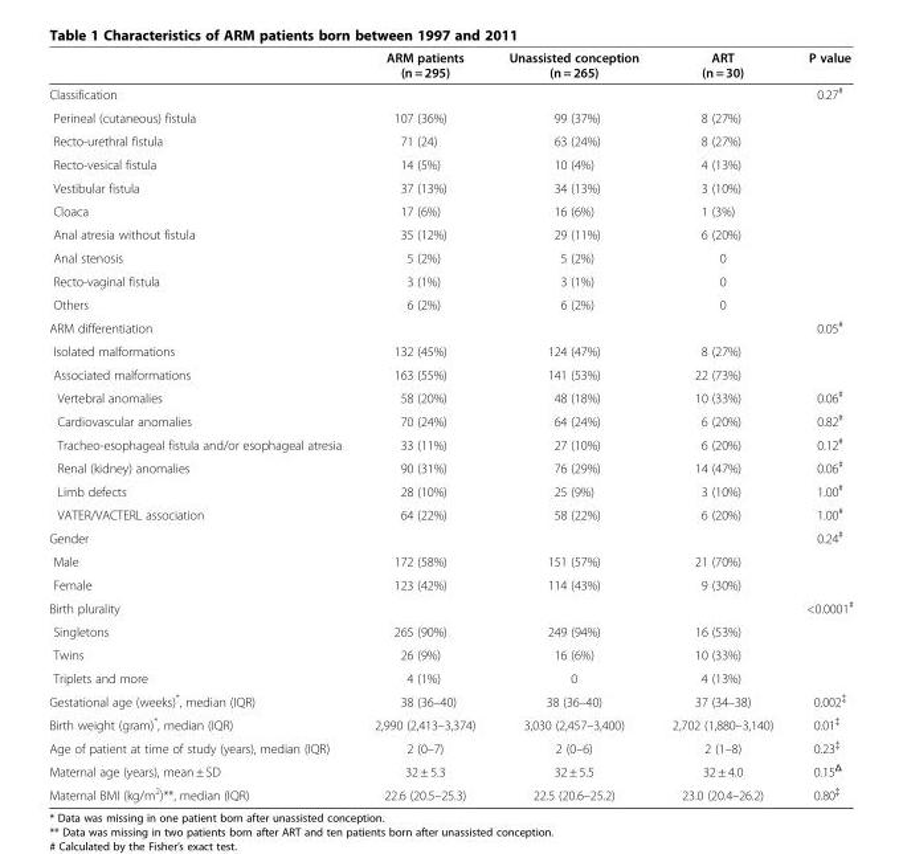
<table><thead><tr><td></td><td>ARM patients (n = 295)</td><td>Unassisted conception (n = 265)</td><td>ART (n = 30)</td><td>P value</td></tr></thead><tbody><tr><td>Classification</td><td></td><td></td><td></td><td>0.27<sup>#</sup></td></tr><tr><td>Perineal (cutaneous) fistula</td><td>107 (36%)</td><td>99 (37%)</td><td>8 (27%)</td><td></td></tr><tr><td>Recto-urethral fistula</td><td>71 (24)</td><td>63 (24%)</td><td>8 (27%)</td><td></td></tr><tr><td>Recto-vesical fistula</td><td>14 (5%)</td><td>10 (4%)</td><td>4 (13%)</td><td></td></tr><tr><td>Vestibular fistula</td><td>37 (13%)</td><td>34 (13%)</td><td>3 (10%)</td><td></td></tr><tr><td>Cloaca</td><td>17 (6%)</td><td>16 (6%)</td><td>1 (3%)</td><td></td></tr><tr><td>Anal atresia without fistula</td><td>35 (12%)</td><td>29 (11%)</td><td>6 (20%)</td><td></td></tr><tr><td>Anal stenosis</td><td>5 (2%)</td><td>5 (2%)</td><td>0</td><td></td></tr><tr><td>Recto-vaginal fistula</td><td>3 (1%)</td><td>3 (1%)</td><td>0</td><td></td></tr><tr><td>Others</td><td>6 (2%)</td><td>6 (2%)</td><td>0</td><td></td></tr><tr><td>ARM differentiation</td><td></td><td></td><td></td><td>0.05<sup>#</sup></td></tr><tr><td>Isolated malformations</td><td>132 (45%)</td><td>124 (47%)</td><td>8 (27%)</td><td></td></tr><tr><td>Associated malformations</td><td>163 (55%)</td><td>141 (53%)</td><td>22 (73%)</td><td></td></tr><tr><td>Vertebral anomalies</td><td>58 (20%)</td><td>48 (18%)</td><td>10 (33%)</td><td>0.06<sup>#</sup></td></tr><tr><td>Cardiovascular anomalies</td><td>70 (24%)</td><td>64 (24%)</td><td>6 (20%)</td><td>0.82<sup>#</sup></td></tr><tr><td>Tracheo-esophageal fistula and/or esophageal atresia</td><td>33 (11%)</td><td>27 (10%)</td><td>6 (20%)</td><td>0.12<sup>#</sup></td></tr><tr><td>Renal (kidney) anomalies</td><td>90 (31%)</td><td>76 (29%)</td><td>14 (47%)</td><td>0.06<sup>#</sup></td></tr><tr><td>Limb defects</td><td>28 (10%)</td><td>25 (9%)</td><td>3 (10%)</td><td>1.00<sup>#</sup></td></tr><tr><td>VATER/VACTERL association</td><td>64 (22%)</td><td>58 (22%)</td><td>6 (20%)</td><td>1.00<sup>#</sup></td></tr><tr><td>Gender</td><td></td><td></td><td></td><td>0.24<sup>#</sup></td></tr><tr><td>Male</td><td>172 (58%)</td><td>151 (57%)</td><td>21 (70%)</td><td></td></tr><tr><td>Female</td><td>123 (42%)</td><td>114 (43%)</td><td>9 (30%)</td><td></td></tr><tr><td>Birth plurality</td><td></td><td></td><td></td><td>&lt;0.0001<sup>#</sup></td></tr><tr><td>Singletons</td><td>265 (90%)</td><td>249 (94%)</td><td>16 (53%)</td><td></td></tr><tr><td>Twins</td><td>26 (9%)</td><td>16 (6%)</td><td>10 (33%)</td><td></td></tr><tr><td>Triplets and more</td><td>4 (1%)</td><td>0</td><td>4 (13%)</td><td></td></tr><tr><td>Gestational age (weeks)*, median (IQR)</td><td>38 (36–40)</td><td>38 (36–40)</td><td>37 (34–38)</td><td>0.002<sup>‡</sup></td></tr><tr><td>Birth weight (gram)*, median (IQR)</td><td>2,990 (2,413–3,374)</td><td>3,030 (2,457–3,400)</td><td>2,702 (1,880–3,140)</td><td>0.01<sup>‡</sup></td></tr><tr><td>Age of patient at time of study (years), median (IQR)</td><td>2 (0–7)</td><td>2 (0–6)</td><td>2 (1–8)</td><td>0.23<sup>‡</sup></td></tr><tr><td>Maternal age (years), mean ± SD</td><td>32 ± 5.3</td><td>32 ± 5.5</td><td>32 ± 4.0</td><td>0.15<sup>Δ</sup></td></tr><tr><td>Maternal BMI (kg/m<sup>2</sup>)**, median (IQR)</td><td>22.6 (20.5–25.3)</td><td>22.5 (20.6–25.2)</td><td>23.0 (20.4–26.2)</td><td>0.80<sup>‡</sup></td></tr></tbody></table>